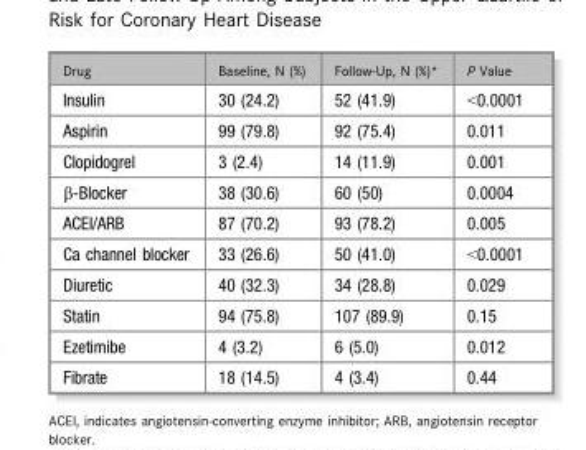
<table><thead><tr><td>Drug</td><td>Baseline, N (%)</td><td>Follow-Up, N (%)*</td><td>P Value</td></tr></thead><tbody><tr><td>Insulin</td><td>30 (24.2)</td><td>52 (41.9)</td><td>&lt;0.0001</td></tr><tr><td>Aspirin</td><td>99 (79.8)</td><td>92 (75.4)</td><td>0.011</td></tr><tr><td>Clopidogrel</td><td>3 (2.4)</td><td>14 (11.9)</td><td>0.001</td></tr><tr><td>β-Blocker</td><td>38 (30.6)</td><td>60 (50)</td><td>0.0004</td></tr><tr><td>ACEI/ARB</td><td>87 (70.2)</td><td>93 (78.2)</td><td>0.005</td></tr><tr><td>Ca channel blocker</td><td>33 (26.6)</td><td>50 (41.0)</td><td>&lt;0.0001</td></tr><tr><td>Diuretic</td><td>40 (32.3)</td><td>34 (28.8)</td><td>0.029</td></tr><tr><td>Statin</td><td>94 (75.8)</td><td>107 (89.9)</td><td>0.15</td></tr><tr><td>Ezetimibe</td><td>4 (3.2)</td><td>6 (5.0)</td><td>0.012</td></tr><tr><td>Fibrate</td><td>18 (14.5)</td><td>4 (3.4)</td><td>0.44</td></tr></tbody></table>